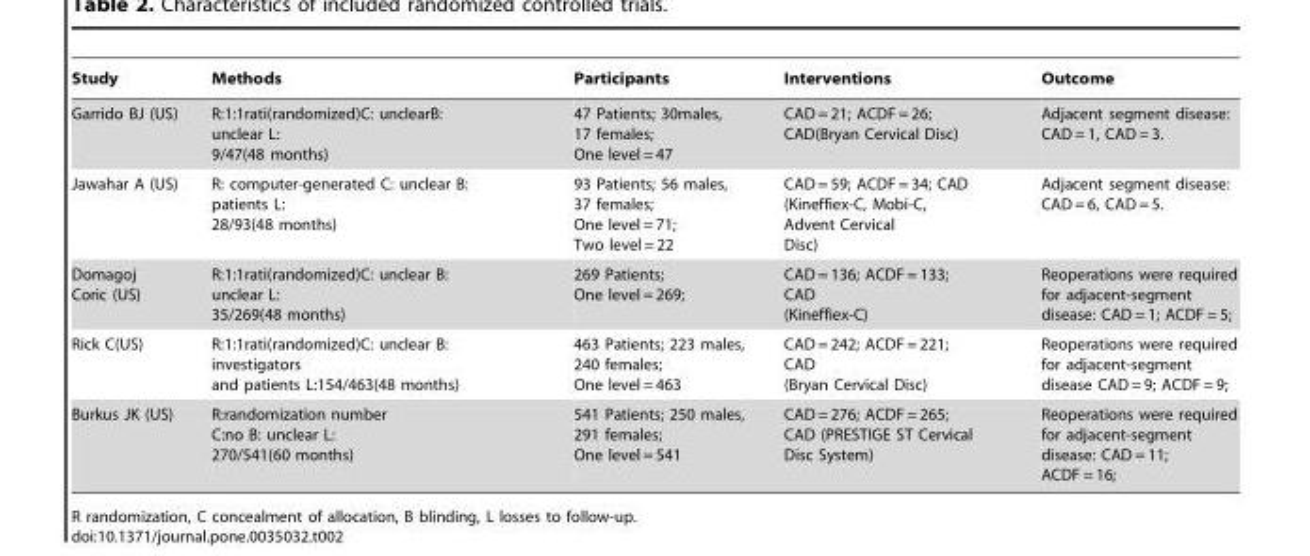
<table><thead><tr><td>Study</td><td>Methods</td><td>Participants</td><td>Interventions</td><td>Outcome</td></tr></thead><tbody><tr><td>Garrido BJ (US)</td><td>R:1:1rati(randomized)C: unclearB: unclear L: 9/47(48 months)</td><td>47 Patients; 30males, 17 females; One level = 47</td><td>CAD = 21; ACDF = 26; CAD(Bryan Cervical Disc)</td><td>Adjacent segment disease: CAD = 1, CAD = 3.</td></tr><tr><td>Jawahar A (US)</td><td>R: computer-generated C: unclear B: patients L: 28/93(48 months)</td><td>93 Patients; 56 males, 37 females; One level = 71; Two level = 22</td><td>CAD = 59; ACDF = 34; CAD (Kineffiex-C, Mobi-C, Advent Cervical Disc)</td><td>Adjacent segment disease: CAD = 6, CAD = 5.</td></tr><tr><td>Domagoj Coric (US)</td><td>R:1:1rati(randomized)C: unclear B: unclear L: 35/269(48 months)</td><td>269 Patients; One level = 269;</td><td>CAD = 136; ACDF = 133; CAD (Kineffiex-C)</td><td>Reoperations were required for adjacent-segment disease: CAD = 1; ACDF = 5;</td></tr><tr><td>Rick C(US)</td><td>R:1:1rati(randomized)C: unclear B: investigators and patients L:154/463(48 months)</td><td>463 Patients; 223 males, 240 females; One level = 463</td><td>CAD = 242; ACDF = 221; CAD (Bryan Cervical Disc)</td><td>Reoperations were required for adjacent-segment disease CAD = 9; ACDF = 9;</td></tr><tr><td>Burkus JK (US)</td><td>R:randomization number C:no B: unclear L: 270/541(60 months)</td><td>541 Patients; 250 males, 291 females; One level = 541</td><td>CAD = 276; ACDF = 265; CAD (PRESTIGE ST Cervical Disc System)</td><td>Reoperations were required for adjacent-segment disease: CAD = 11; ACDF = 16;</td></tr></tbody></table>